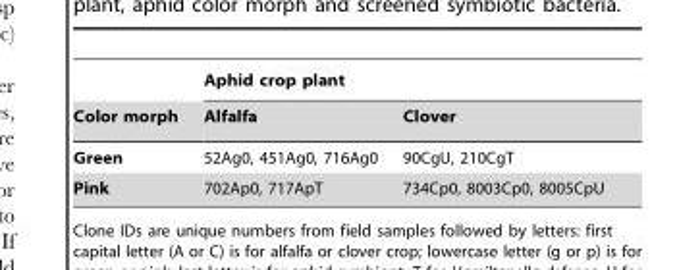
<table><thead><tr><td rowspan="2">Color morph</td><td colspan="2">Aphid crop plant</td></tr><tr><td>Alfalfa</td><td>Clover</td></tr></thead><tbody><tr><td>Green</td><td>52Ag0, 451Ag0, 716Ag0</td><td>90CgU, 210CgT</td></tr><tr><td>Pink</td><td>702Ap0, 717ApT</td><td>734Cp0, 8003Cp0, 8005CpU</td></tr></tbody></table>